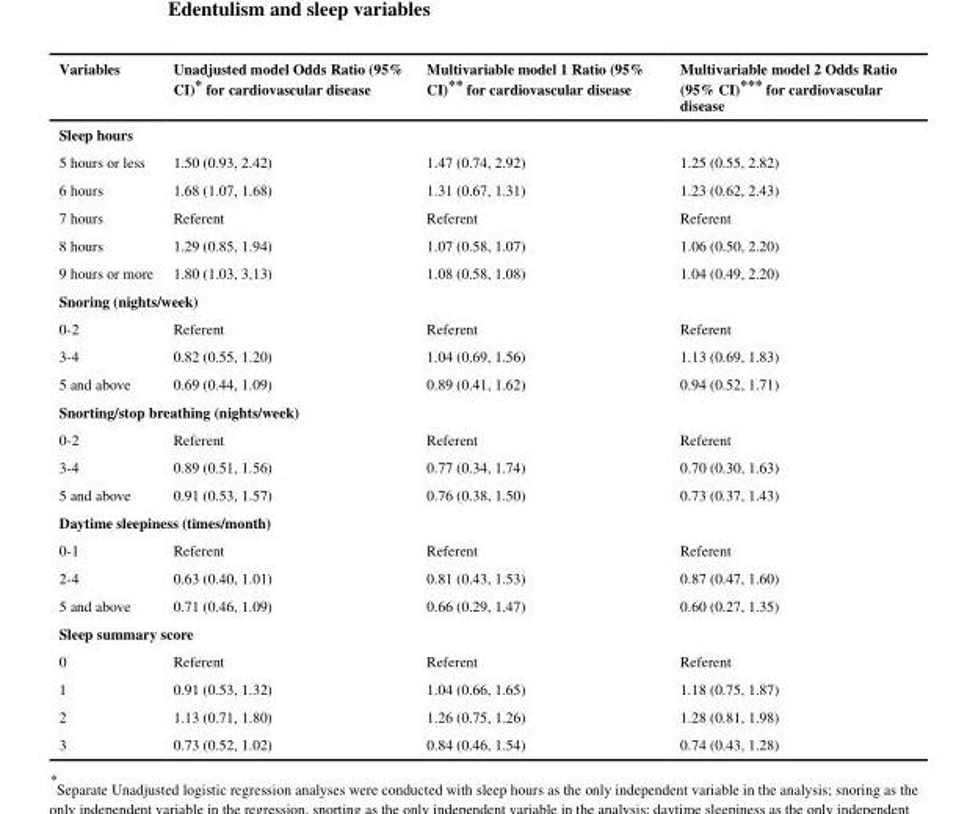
<table><thead><tr><td>Variables</td><td>Unadjusted model Odds Ratio (95% CI)* for cardiovascular disease</td><td>Multivariable model 1 Ratio (95% CI)** for cardiovascular disease</td><td>Multivariable model 2 Odds Ratio (95% CI)*** for cardiovascular disease</td></tr></thead><tbody><tr><td colspan="4">Sleep hours</td></tr><tr><td>5 hours or less</td><td>1.50 (0.93, 2.42)</td><td>1.47 (0.74, 2.92)</td><td>1.25 (0.55, 2.82)</td></tr><tr><td>6 hours</td><td>1.68 (1.07, 1.68)</td><td>1.31 (0.67, 1.31)</td><td>1.23 (0.62, 2.43)</td></tr><tr><td>7 hours</td><td>Referent</td><td>Referent</td><td>Referent</td></tr><tr><td>8 hours</td><td>1.29 (0.85, 1.94)</td><td>1.07 (0.58, 1.07)</td><td>1.06 (0.50, 2.20)</td></tr><tr><td>9 hours or more</td><td>1.80 (1.03, 3,13)</td><td>1.08 (0.58, 1.08)</td><td>1.04 (0.49, 2.20)</td></tr><tr><td colspan="4">Snoring (nights/week)</td></tr><tr><td>0-2</td><td>Referent</td><td>Referent</td><td>Referent</td></tr><tr><td>3-4</td><td>0.82 (0.55, 1.20)</td><td>1.04 (0.69, 1.56)</td><td>1.13 (0.69, 1.83)</td></tr><tr><td>5 and above</td><td>0.69 (0.44, 1.09)</td><td>0.89 (0.41, 1.62)</td><td>0.94 (0.52, 1.71)</td></tr><tr><td colspan="4">Snorting/stop breathing (nights/week)</td></tr><tr><td>0-2</td><td>Referent</td><td>Referent</td><td>Referent</td></tr><tr><td>3-4</td><td>0.89 (0.51, 1.56)</td><td>0.77 (0.34, 1.74)</td><td>0.70 (0.30, 1.63)</td></tr><tr><td>5 and above</td><td>0.91 (0.53, 1.57)</td><td>0.76 (0.38, 1.50)</td><td>0.73 (0.37, 1.43)</td></tr><tr><td colspan="4">Daytime sleepiness (times/month)</td></tr><tr><td>0-1</td><td>Referent</td><td>Referent</td><td>Referent</td></tr><tr><td>2-4</td><td>0.63 (0.40, 1.01)</td><td>0.81 (0.43, 1.53)</td><td>0.87 (0.47, 1.60)</td></tr><tr><td>5 and above</td><td>0.71 (0.46, 1.09)</td><td>0.66 (0.29, 1.47)</td><td>0.60 (0.27, 1.35)</td></tr><tr><td colspan="4">Sleep summary score</td></tr><tr><td>0</td><td>Referent</td><td>Referent</td><td>Referent</td></tr><tr><td>1</td><td>0.91 (0.53, 1.32)</td><td>1.04 (0.66, 1.65)</td><td>1.18 (0.75, 1.87)</td></tr><tr><td>2</td><td>1.13 (0.71, 1.80)</td><td>1.26 (0.75, 1.26)</td><td>1.28 (0.81, 1.98)</td></tr><tr><td>3</td><td>0.73 (0.52, 1.02)</td><td>0.84 (0.46, 1.54)</td><td>0.74 (0.43, 1.28)</td></tr></tbody></table>